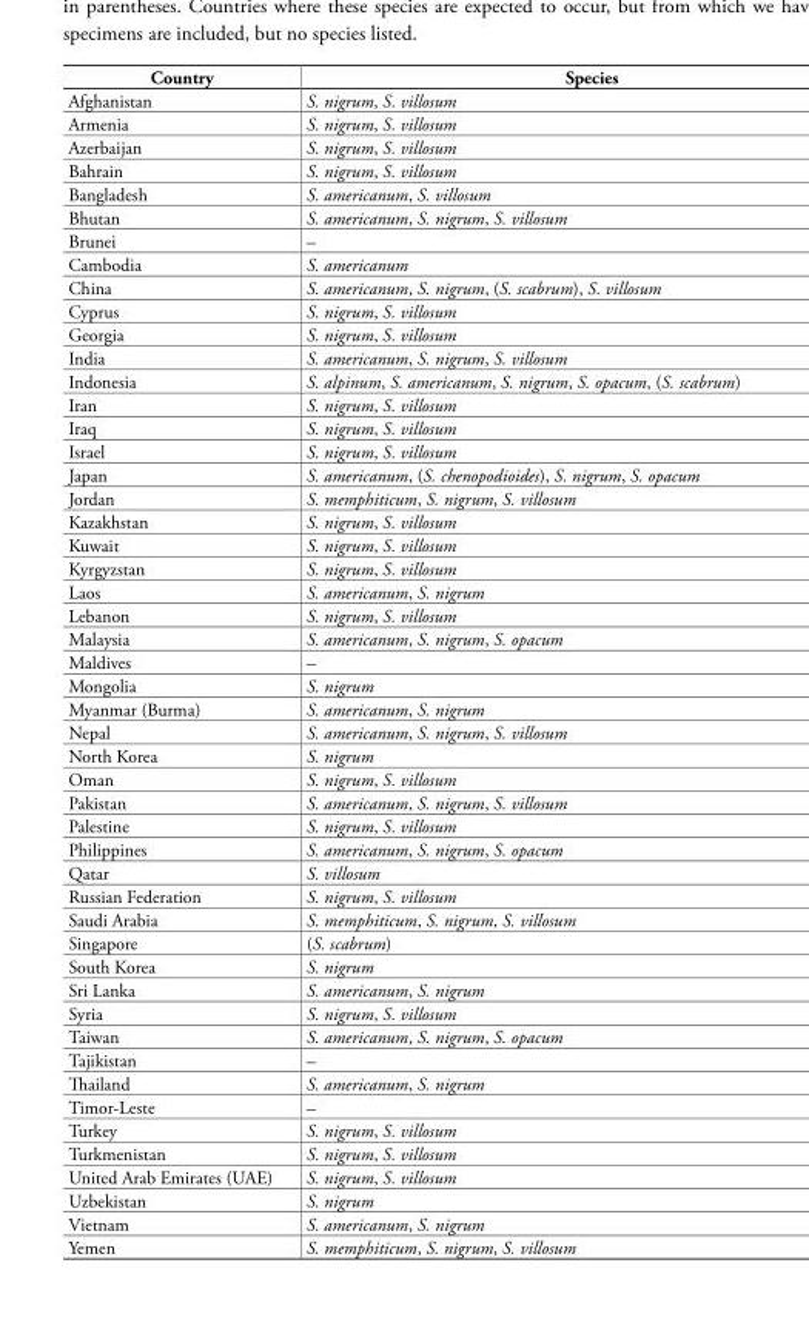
<table><tbody><tr><td>Country</td><td>Species</td></tr><tr><td>Afghanistan</td><td>S. nigrum, S. villosum</td></tr><tr><td>Armenia</td><td>S. nigrum, S. villosum</td></tr><tr><td>Azerbaijan</td><td>S. nigrum, S. villosum</td></tr><tr><td>Bahrain</td><td>S. nigrum, S. villosum</td></tr><tr><td>Bangladesh</td><td>S. americanum, S. villosum</td></tr><tr><td>Bhutan</td><td>S. americanum, S. nigrum, S. villosum</td></tr><tr><td>Brunei</td><td>–</td></tr><tr><td>Cambodia</td><td>S. americanum</td></tr><tr><td>China</td><td>S. americanum, S. nigrum, (S. scabrum), S. villosum</td></tr><tr><td>Cyprus</td><td>S. nigrum, S. villosum</td></tr><tr><td>Georgia</td><td>S. nigrum, S. villosum</td></tr><tr><td>India</td><td>S. americanum, S. nigrum, S. villosum</td></tr><tr><td>Indonesia</td><td>S. alpinum, S. americanum, S. nigrum, S. opacum, (S. scabrum)</td></tr><tr><td>Iran</td><td>S. nigrum, S. villosum</td></tr><tr><td>Iraq</td><td>S. nigrum, S. villosum</td></tr><tr><td>Israel</td><td>S. nigrum, S. villosum</td></tr><tr><td>Japan</td><td>S. americanum, (S. chenopodioides), S. nigrum, S. opacum</td></tr><tr><td>Jordan</td><td>S. memphiticum, S. nigrum, S. villosum</td></tr><tr><td>Kazakhstan</td><td>S. nigrum, S. villosum</td></tr><tr><td>Kuwait</td><td>S. nigrum, S. villosum</td></tr><tr><td>Kyrgyzstan</td><td>S. nigrum, S. villosum</td></tr><tr><td>Laos</td><td>S. americanum, S. nigrum</td></tr><tr><td>Lebanon</td><td>S. nigrum, S. villosum</td></tr><tr><td>Malaysia</td><td>S. americanum, S. nigrum, S. opacum</td></tr><tr><td>Maldives</td><td>–</td></tr><tr><td>Mongolia</td><td>S. nigrum</td></tr><tr><td>Myanmar (Burma)</td><td>S. americanum, S. nigrum</td></tr><tr><td>Nepal</td><td>S. americanum, S. nigrum, S. villosum</td></tr><tr><td>North Korea</td><td>S. nigrum</td></tr><tr><td>Oman</td><td>S. nigrum, S. villosum</td></tr><tr><td>Pakistan</td><td>S. americanum, S. nigrum, S. villosum</td></tr><tr><td>Palestine</td><td>S. nigrum, S. villosum</td></tr><tr><td>Philippines</td><td>S. americanum, S. nigrum, S. opacum</td></tr><tr><td>Qatar</td><td>S. villosum</td></tr><tr><td>Russian Federation</td><td>S. nigrum, S. villosum</td></tr><tr><td>Saudi Arabia</td><td>S. memphiticum, S. nigrum, S. villosum</td></tr><tr><td>Singapore</td><td>(S. scabrum)</td></tr><tr><td>South Korea</td><td>S. nigrum</td></tr><tr><td>Sri Lanka</td><td>S. americanum, S. nigrum</td></tr><tr><td>Syria</td><td>S. nigrum, S. villosum</td></tr><tr><td>Taiwan</td><td>S. americanum, S. nigrum, S. opacum</td></tr><tr><td>Tajikistan</td><td>–</td></tr><tr><td>Thailand</td><td>S. americanum, S. nigrum</td></tr><tr><td>Timor-Leste</td><td>–</td></tr><tr><td>Turkey</td><td>S. nigrum, S. villosum</td></tr><tr><td>Turkmenistan</td><td>S. nigrum, S. villosum</td></tr><tr><td>United Arab Emirates (UAE)</td><td>S. nigrum, S. villosum</td></tr><tr><td>Uzbekistan</td><td>S. nigrum</td></tr><tr><td>Vietnam</td><td>S. americanum, S. nigrum</td></tr><tr><td>Yemen</td><td>S. memphiticum, S. nigrum, S. villosum</td></tr></tbody></table>